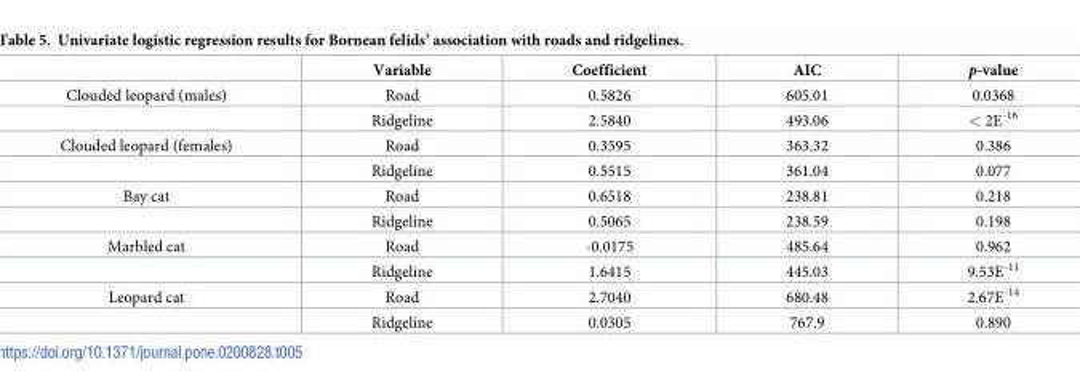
<table><thead><tr><td></td><td>Variable</td><td>Coefficient</td><td>AIC</td><td>p-value</td></tr></thead><tbody><tr><td rowspan="2">Clouded leopard (males)</td><td>Road</td><td>0.5826</td><td>605.01</td><td>0.0368</td></tr><tr><td>Ridgeline</td><td>2.5840</td><td>493.06</td><td>&lt; 2E<sup>-16</sup></td></tr><tr><td rowspan="2">Clouded leopard (females)</td><td>Road</td><td>0.3595</td><td>363.32</td><td>0.386</td></tr><tr><td>Ridgeline</td><td>0.5515</td><td>361.04</td><td>0.077</td></tr><tr><td rowspan="2">Bay cat</td><td>Road</td><td>0.6518</td><td>238.81</td><td>0.218</td></tr><tr><td>Ridgeline</td><td>0.5065</td><td>238.59</td><td>0.198</td></tr><tr><td rowspan="2">Marbled cat</td><td>Road</td><td>-0.0175</td><td>485.64</td><td>0.962</td></tr><tr><td>Ridgeline</td><td>1.6415</td><td>445.03</td><td>9.53E<sup>-11</sup></td></tr><tr><td rowspan="2">Leopard cat</td><td>Road</td><td>2.7040</td><td>680.48</td><td>2.67E<sup>-14</sup></td></tr><tr><td>Ridgeline</td><td>0.0305</td><td>767.9</td><td>0.890</td></tr></tbody></table>